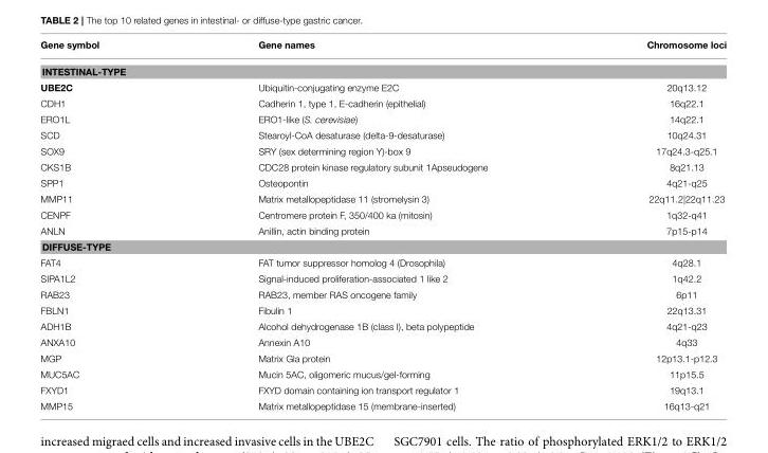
<table><thead><tr><td>Gene symbol</td><td>Gene names</td><td>Chromosome loci</td></tr></thead><tbody><tr><td colspan="3">INTESTINAL-TYPE</td></tr><tr><td>UBE2C</td><td>Ubiquitin-conjugating enzyme E2C</td><td>20q13.12</td></tr><tr><td>CDH1</td><td>Cadherin 1, type 1, E-cadherin (epithelial)</td><td>16q22.1</td></tr><tr><td>ERO1L</td><td>ERO1-like (S. cerevisiae)</td><td>14q22.1</td></tr><tr><td>SCD</td><td>Stearoyl-CoA desaturase (delta-9-desaturase)</td><td>10q24.31</td></tr><tr><td>SOX9</td><td>SRY (sex determining region Y)-box 9</td><td>17q24.3-q25.1</td></tr><tr><td>CKS1B</td><td>CDC28 protein kinase regulatory subunit 1Apseudogene</td><td>8q21.13</td></tr><tr><td>SPP1</td><td>Osteopontin</td><td>4q21-q25</td></tr><tr><td>MMP11</td><td>Matrix metallopeptidase 11 (stromelysin 3)</td><td>22q11.2|22q11.23</td></tr><tr><td>CENPF</td><td>Centromere protein F, 350/400 ka (mitosin)</td><td>1q32-q41</td></tr><tr><td>ANLN</td><td>Anillin, actin binding protein</td><td>7p15-p14</td></tr><tr><td colspan="3">DIFFUSE-TYPE</td></tr><tr><td>FAT4</td><td>FAT tumor suppressor homolog 4 (Drosophila)</td><td>4q28.1</td></tr><tr><td>SIPA1L2</td><td>Signal-induced proliferation-associated 1 like 2</td><td>1q42.2</td></tr><tr><td>RAB23</td><td>RAB23, member RAS oncogene family</td><td>6p11</td></tr><tr><td>FBLN1</td><td>Fibulin 1</td><td>22q13.31</td></tr><tr><td>ADH1B</td><td>Alcohol dehydrogenase 1B (class I), beta polypeptide</td><td>4q21-q23</td></tr><tr><td>ANXA10</td><td>Annexin A10</td><td>4q33</td></tr><tr><td>MGP</td><td>Matrix Gla protein</td><td>12p13.1-p12.3</td></tr><tr><td>MUC5AC</td><td>Mucin 5AC, oligomeric mucus/gel-forming</td><td>11p15.5</td></tr><tr><td>FXYD1</td><td>FXYD domain containing ion transport regulator 1</td><td>19q13.1</td></tr><tr><td>MMP15</td><td>Matrix metallopeptidase 15 (membrane-inserted)</td><td>16q13-q21</td></tr></tbody></table>